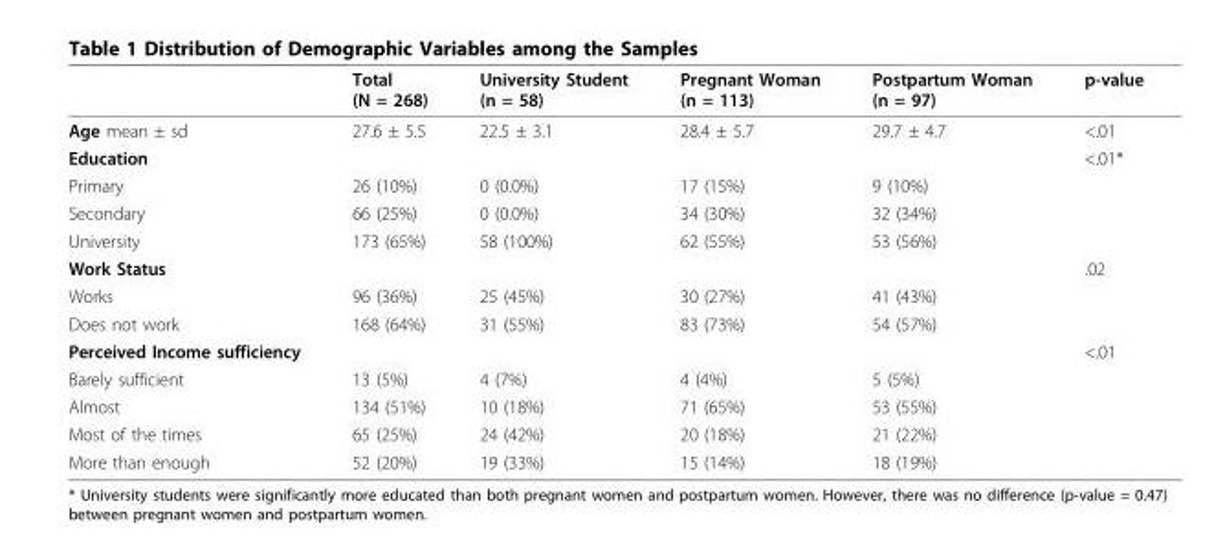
<table><thead><tr><td></td><td>Total (N = 268)</td><td>University Student (n = 58)</td><td>Pregnant Woman (n = 113)</td><td>Postpartum Woman (n = 97)</td><td>p-value</td></tr></thead><tbody><tr><td>Age mean ± sd</td><td>27.6 ± 5.5</td><td>22.5 ± 3.1</td><td>28.4 ± 5.7</td><td>29.7 ± 4.7</td><td>&lt;.01</td></tr><tr><td>Education</td><td></td><td></td><td></td><td></td><td>&lt;.01*</td></tr><tr><td>Primary</td><td>26 (10%)</td><td>0 (0.0%)</td><td>17 (15%)</td><td>9 (10%)</td><td></td></tr><tr><td>Secondary</td><td>66 (25%)</td><td>0 (0.0%)</td><td>34 (30%)</td><td>32 (34%)</td><td></td></tr><tr><td>University</td><td>173 (65%)</td><td>58 (100%)</td><td>62 (55%)</td><td>53 (56%)</td><td></td></tr><tr><td>Work Status</td><td></td><td></td><td></td><td></td><td>.02</td></tr><tr><td>Works</td><td>96 (36%)</td><td>25 (45%)</td><td>30 (27%)</td><td>41 (43%)</td><td></td></tr><tr><td>Does not work</td><td>168 (64%)</td><td>31 (55%)</td><td>83 (73%)</td><td>54 (57%)</td><td></td></tr><tr><td>Perceived Income sufficiency</td><td></td><td></td><td></td><td></td><td>&lt;.01</td></tr><tr><td>Barely sufficient</td><td>13 (5%)</td><td>4 (7%)</td><td>4 (4%)</td><td>5 (5%)</td><td></td></tr><tr><td>Almost</td><td>134 (51%)</td><td>10 (18%)</td><td>71 (65%)</td><td>53 (55%)</td><td></td></tr><tr><td>Most of the times</td><td>65 (25%)</td><td>24 (42%)</td><td>20 (18%)</td><td>21 (22%)</td><td></td></tr><tr><td>More than enough</td><td>52 (20%)</td><td>19 (33%)</td><td>15 (14%)</td><td>18 (19%)</td><td></td></tr></tbody></table>